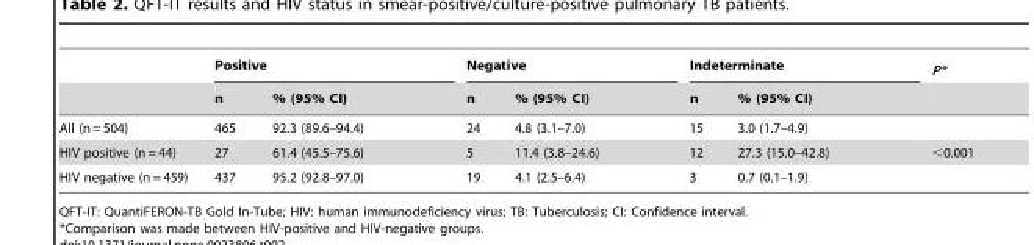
<table><thead><tr><td rowspan="2"></td><td colspan="2">Positive</td><td colspan="2">Negative</td><td colspan="2">Indeterminate</td><td rowspan="2">P*</td></tr><tr><td>n</td><td>% (95% CI)</td><td>n</td><td>% (95% CI)</td><td>n</td><td>% (95% CI)</td></tr></thead><tbody><tr><td>All (n = 504)</td><td>465</td><td>92.3 (89.6–94.4)</td><td>24</td><td>4.8 (3.1–7.0)</td><td>15</td><td>3.0 (1.7–4.9)</td><td></td></tr><tr><td>HIV positive (n = 44)</td><td>27</td><td>61.4 (45.5–75.6)</td><td>5</td><td>11.4 (3.8–24.6)</td><td>12</td><td>27.3 (15.0–42.8)</td><td>&lt;0.001</td></tr><tr><td>HIV negative (n = 459)</td><td>437</td><td>95.2 (92.8–97.0)</td><td>19</td><td>4.1 (2.5–6.4)</td><td>3</td><td>0.7 (0.1–1.9)</td><td></td></tr></tbody></table>